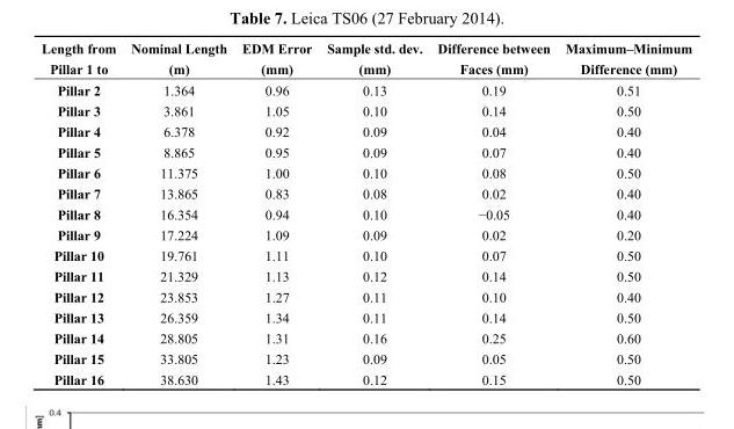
<table><thead><tr><td>Length from Pillar 1 to</td><td>Nominal Length (m)</td><td>EDM Error (mm)</td><td>Sample std. dev. (mm)</td><td>Difference between Faces (mm)</td><td>Maximum–Minimum Difference (mm)</td></tr></thead><tbody><tr><td>Pillar 2</td><td>1.364</td><td>0.96</td><td>0.13</td><td>0.19</td><td>0.51</td></tr><tr><td>Pillar 3</td><td>3.861</td><td>1.05</td><td>0.10</td><td>0.14</td><td>0.50</td></tr><tr><td>Pillar 4</td><td>6.378</td><td>0.92</td><td>0.09</td><td>0.04</td><td>0.40</td></tr><tr><td>Pillar 5</td><td>8.865</td><td>0.95</td><td>0.09</td><td>0.07</td><td>0.40</td></tr><tr><td>Pillar 6</td><td>11.375</td><td>1.00</td><td>0.10</td><td>0.08</td><td>0.50</td></tr><tr><td>Pillar 7</td><td>13.865</td><td>0.83</td><td>0.08</td><td>0.02</td><td>0.40</td></tr><tr><td>Pillar 8</td><td>16.354</td><td>0.94</td><td>0.10</td><td>−0.05</td><td>0.40</td></tr><tr><td>Pillar 9</td><td>17.224</td><td>1.09</td><td>0.09</td><td>0.02</td><td>0.20</td></tr><tr><td>Pillar 10</td><td>19.761</td><td>1.11</td><td>0.10</td><td>0.07</td><td>0.50</td></tr><tr><td>Pillar 11</td><td>21.329</td><td>1.13</td><td>0.12</td><td>0.14</td><td>0.50</td></tr><tr><td>Pillar 12</td><td>23.853</td><td>1.27</td><td>0.11</td><td>0.10</td><td>0.40</td></tr><tr><td>Pillar 13</td><td>26.359</td><td>1.34</td><td>0.11</td><td>0.14</td><td>0.50</td></tr><tr><td>Pillar 14</td><td>28.805</td><td>1.31</td><td>0.16</td><td>0.25</td><td>0.60</td></tr><tr><td>Pillar 15</td><td>33.805</td><td>1.23</td><td>0.09</td><td>0.05</td><td>0.50</td></tr><tr><td>Pillar 16</td><td>38.630</td><td>1.43</td><td>0.12</td><td>0.15</td><td>0.50</td></tr></tbody></table>